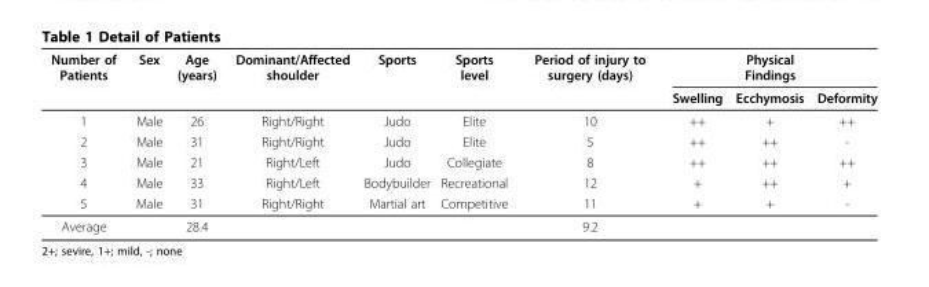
<table><thead><tr><td rowspan="2">Number of Patients</td><td rowspan="2">Sex</td><td rowspan="2">Age (years)</td><td rowspan="2">Dominant/Affected shoulder</td><td rowspan="2">Sports</td><td rowspan="2">Sports level</td><td rowspan="2">Period of injury to surgery (days)</td><td rowspan="2">Swelling</td><td rowspan="2">Physical Findings Ecchymosis</td><td rowspan="2">Deformity</td></tr><tr></tr></thead><tbody><tr><td>1</td><td>Male</td><td>26</td><td>Right/Right</td><td>Judo</td><td>Elite</td><td>10</td><td>++</td><td>+</td><td>++</td></tr><tr><td>2</td><td>Male</td><td>31</td><td>Right/Right</td><td>Judo</td><td>Elite</td><td>5</td><td>++</td><td>++</td><td>-</td></tr><tr><td>3</td><td>Male</td><td>21</td><td>Right/Left</td><td>Judo</td><td>Collegiate</td><td>8</td><td>++</td><td>++</td><td>++</td></tr><tr><td>4</td><td>Male</td><td>33</td><td>Right/Left</td><td>Bodybuilder</td><td>Recreational</td><td>12</td><td>+</td><td>++</td><td>+</td></tr><tr><td>5</td><td>Male</td><td>31</td><td>Right/Right</td><td>Martial art</td><td>Competitive</td><td>11</td><td>+</td><td>+</td><td>-</td></tr><tr><td>Average</td><td></td><td>28.4</td><td></td><td></td><td></td><td>9.2</td><td></td><td></td><td></td></tr></tbody></table>